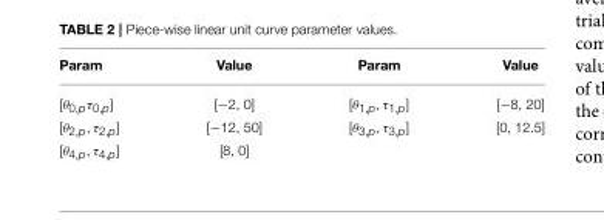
<table><thead><tr><td>Param</td><td>Value</td><td>Param</td><td>Value</td></tr></thead><tbody><tr><td>[θ<sub>0,p</sub>τ<sub>0,p</sub>]</td><td>[−2, 0]</td><td>[θ<sub>1,p</sub>, τ<sub>1,p</sub>]</td><td>[−8, 20]</td></tr><tr><td>[θ<sub>2,p</sub>, τ<sub>2,p</sub>]</td><td>[−12, 50]</td><td>[θ<sub>3,p</sub>, τ<sub>3,p</sub>]</td><td>[0, 12.5]</td></tr><tr><td>[θ<sub>4,p</sub>, τ<sub>4,p</sub>]</td><td>[8, 0]</td><td></td><td></td></tr></tbody></table>